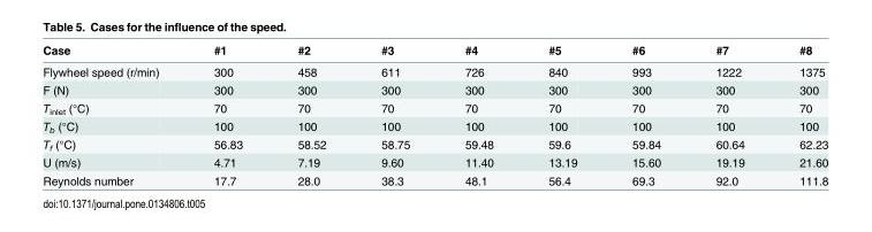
<table><thead><tr><td>Case</td><td>#1</td><td>#2</td><td>#3</td><td>#4</td><td>#5</td><td>#6</td><td>#7</td><td>#8</td></tr></thead><tbody><tr><td>Flywheel speed (r/min)</td><td>300</td><td>458</td><td>611</td><td>726</td><td>840</td><td>993</td><td>1222</td><td>1375</td></tr><tr><td>F (N)</td><td>300</td><td>300</td><td>300</td><td>300</td><td>300</td><td>300</td><td>300</td><td>300</td></tr><tr><td>T<sub>inlet</sub> (°C)</td><td>70</td><td>70</td><td>70</td><td>70</td><td>70</td><td>70</td><td>70</td><td>70</td></tr><tr><td>T<sub>b</sub> (°C)</td><td>100</td><td>100</td><td>100</td><td>100</td><td>100</td><td>100</td><td>100</td><td>100</td></tr><tr><td>T<sub>f</sub> (°C)</td><td>56.83</td><td>58.52</td><td>58.75</td><td>59.48</td><td>59.6</td><td>59.84</td><td>60.64</td><td>62.23</td></tr><tr><td>U (m/s)</td><td>4.71</td><td>7.19</td><td>9.60</td><td>11.40</td><td>13.19</td><td>15.60</td><td>19.19</td><td>21.60</td></tr><tr><td>Reynolds number</td><td>17.7</td><td>28.0</td><td>38.3</td><td>48.1</td><td>56.4</td><td>69.3</td><td>92.0</td><td>111.8</td></tr></tbody></table>